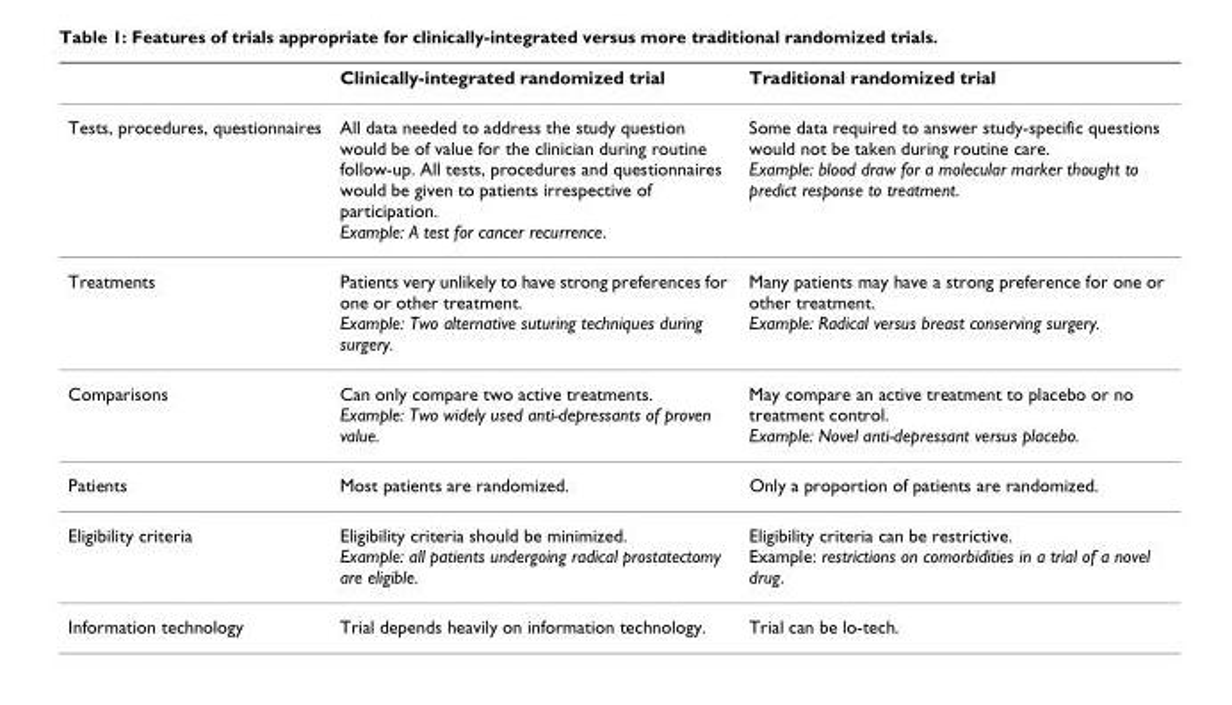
<table><thead><tr><td></td><td>Clinically-integrated randomized trial</td><td>Traditional randomized trial</td></tr></thead><tbody><tr><td>Tests, procedures, questionnaires</td><td>All data needed to address the study question would be of value for the clinician during routine follow-up. All tests, procedures and questionnaires would be given to patients irrespective of participation. Example: A test for cancer recurrence.</td><td>Some data required to answer study-specific questions would not be taken during routine care. Example: blood draw for a molecular marker thought to predict response to treatment.</td></tr><tr><td>Treatments</td><td>Patients very unlikely to have strong preferences for one or other treatment. Example: Two alternative suturing techniques during surgery.</td><td>Many patients may have a strong preference for one or other treatment. Example: Radical versus breast conserving surgery.</td></tr><tr><td>Comparisons</td><td>Can only compare two active treatments. Example: Two widely used anti-depressants of proven value.</td><td>May compare an active treatment to placebo or no treatment control. Example: Novel anti-depressant versus placebo.</td></tr><tr><td>Patients</td><td>Most patients are randomized.</td><td>Only a proportion of patients are randomized.</td></tr><tr><td>Eligibility criteria</td><td>Eligibility criteria should be minimized. Example: all patients undergoing radical prostatectomy are eligible.</td><td>Eligibility criteria can be restrictive. Example: restrictions on comorbidities in a trial of a novel drug.</td></tr><tr><td>Information technology</td><td>Trial depends heavily on information technology.</td><td>Trial can be lo-tech.</td></tr></tbody></table>